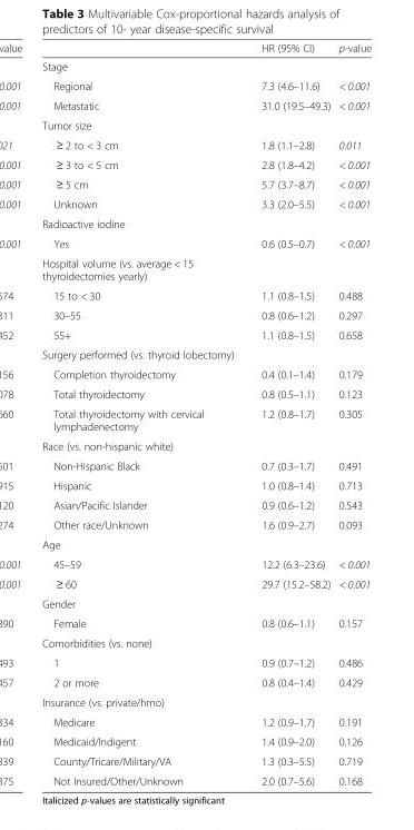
<table><thead><tr><td></td><td>HR (95% CI)</td><td>p-value</td></tr></thead><tbody><tr><td colspan="3">Stage</td></tr><tr><td>Regional</td><td>7.3 (4.6–11.6)</td><td>&lt; 0.001</td></tr><tr><td>Metastatic</td><td>31.0 (19.5–49.3)</td><td>&lt; 0.001</td></tr><tr><td colspan="3">Tumor size</td></tr><tr><td>≥ 2 to &lt; 3 cm</td><td>1.8 (1.1–2.8)</td><td>0.011</td></tr><tr><td>≥ 3 to &lt; 5 cm</td><td>2.8 (1.8–4.2)</td><td>&lt; 0.001</td></tr><tr><td>≥ 5 cm</td><td>5.7 (3.7–8.7)</td><td>&lt; 0.001</td></tr><tr><td>Unknown</td><td>3.3 (2.0–5.5)</td><td>&lt; 0.001</td></tr><tr><td colspan="3">Radioactive iodine</td></tr><tr><td>Yes</td><td>0.6 (0.5–0.7)</td><td>&lt; 0.001</td></tr><tr><td colspan="3">Hospital volume (vs. average &lt; 15 thyroidectomies yearly)</td></tr><tr><td>15 to &lt; 30</td><td>1.1 (0.8–1.5)</td><td>0.488</td></tr><tr><td>30–55</td><td>0.8 (0.6–1.2)</td><td>0.297</td></tr><tr><td>55+</td><td>1.1 (0.8–1.5)</td><td>0.658</td></tr><tr><td colspan="3">Surgery performed (vs. thyroid lobectomy)</td></tr><tr><td>Completion thyroidectomy</td><td>0.4 (0.1–1.4)</td><td>0.179</td></tr><tr><td>Total thyroidectomy</td><td>0.8 (0.5–1.1)</td><td>0.123</td></tr><tr><td>Total thyroidectomy with cervical lymphadenectomy</td><td>1.2 (0.8–1.7)</td><td>0.305</td></tr><tr><td colspan="3">Race (vs. non-hispanic white)</td></tr><tr><td>Non-Hispanic Black</td><td>0.7 (0.3–1.7)</td><td>0.491</td></tr><tr><td>Hispanic</td><td>1.0 (0.8–1.4)</td><td>0.713</td></tr><tr><td>Asian/Pacific Islander</td><td>0.9 (0.6–1.2)</td><td>0.543</td></tr><tr><td>Other race/Unknown</td><td>1.6 (0.9–2.7)</td><td>0.093</td></tr><tr><td colspan="3">Age</td></tr><tr><td>45–59</td><td>12.2 (6.3–23.6)</td><td>&lt; 0.001</td></tr><tr><td>≥ 60</td><td>29.7 (15.2–58.2)</td><td>&lt; 0.001</td></tr><tr><td colspan="3">Gender</td></tr><tr><td>Female</td><td>0.8 (0.6–1.1)</td><td>0.157</td></tr><tr><td colspan="3">Comorbidities (vs. none)</td></tr><tr><td>1</td><td>0.9 (0.7–1.2)</td><td>0.486</td></tr><tr><td>2 or more</td><td>0.8 (0.4–1.4)</td><td>0.429</td></tr><tr><td colspan="3">Insurance (vs. private/hmo)</td></tr><tr><td>Medicare</td><td>1.2 (0.9–1.7)</td><td>0.191</td></tr><tr><td>Medicaid/Indigent</td><td>1.4 (0.9–2.0)</td><td>0.126</td></tr><tr><td>County/Tricare/Military/VA</td><td>1.3 (0.3–5.5)</td><td>0.719</td></tr><tr><td>Not Insured/Other/Unknown</td><td>2.0 (0.7–5.6)</td><td>0.168</td></tr></tbody></table>